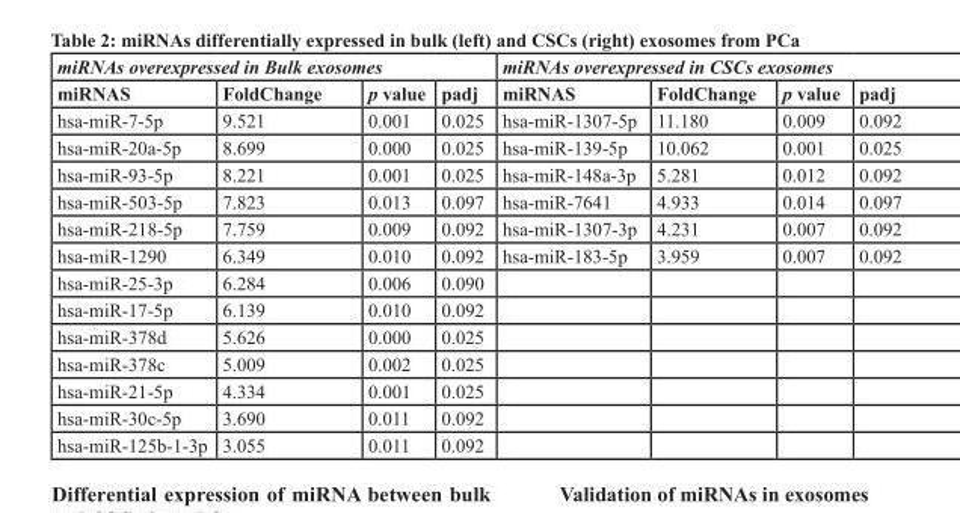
<table><thead><tr><td colspan="4">miRNAs overexpressed in Bulk exosomes</td><td colspan="4">miRNAs overexpressed in CSCs exosomes</td></tr><tr><td>miRNAS</td><td>FoldChange</td><td>p value</td><td>padj</td><td>miRNAS</td><td>FoldChange</td><td>p value</td><td>padj</td></tr></thead><tbody><tr><td>hsa-miR-7-5p</td><td>9.521</td><td>0.001</td><td>0.025</td><td>hsa-miR-1307-5p</td><td>11.180</td><td>0.009</td><td>0.092</td></tr><tr><td>hsa-miR-20a-5p</td><td>8.699</td><td>0.000</td><td>0.025</td><td>hsa-miR-139-5p</td><td>10.062</td><td>0.001</td><td>0.025</td></tr><tr><td>hsa-miR-93-5p</td><td>8.221</td><td>0.001</td><td>0.025</td><td>hsa-miR-148a-3p</td><td>5.281</td><td>0.012</td><td>0.092</td></tr><tr><td>hsa-miR-503-5p</td><td>7.823</td><td>0.013</td><td>0.097</td><td>hsa-miR-7641</td><td>4.933</td><td>0.014</td><td>0.097</td></tr><tr><td>hsa-miR-218-5p</td><td>7.759</td><td>0.009</td><td>0.092</td><td>hsa-miR-1307-3p</td><td>4.231</td><td>0.007</td><td>0.092</td></tr><tr><td>hsa-miR-1290</td><td>6.349</td><td>0.010</td><td>0.092</td><td>hsa-miR-183-5p</td><td>3.959</td><td>0.007</td><td>0.092</td></tr><tr><td>hsa-miR-25-3p</td><td>6.284</td><td>0.006</td><td>0.090</td><td></td><td></td><td></td><td></td></tr><tr><td>hsa-miR-17-5p</td><td>6.139</td><td>0.010</td><td>0.092</td><td></td><td></td><td></td><td></td></tr><tr><td>hsa-miR-378d</td><td>5.626</td><td>0.000</td><td>0.025</td><td></td><td></td><td></td><td></td></tr><tr><td>hsa-miR-378c</td><td>5.009</td><td>0.002</td><td>0.025</td><td></td><td></td><td></td><td></td></tr><tr><td>hsa-miR-21-5p</td><td>4.334</td><td>0.001</td><td>0.025</td><td></td><td></td><td></td><td></td></tr><tr><td>hsa-miR-30c-5p</td><td>3.690</td><td>0.011</td><td>0.092</td><td></td><td></td><td></td><td></td></tr><tr><td>hsa-miR-125b-1-3p</td><td>3.055</td><td>0.011</td><td>0.092</td><td></td><td></td><td></td><td></td></tr></tbody></table>